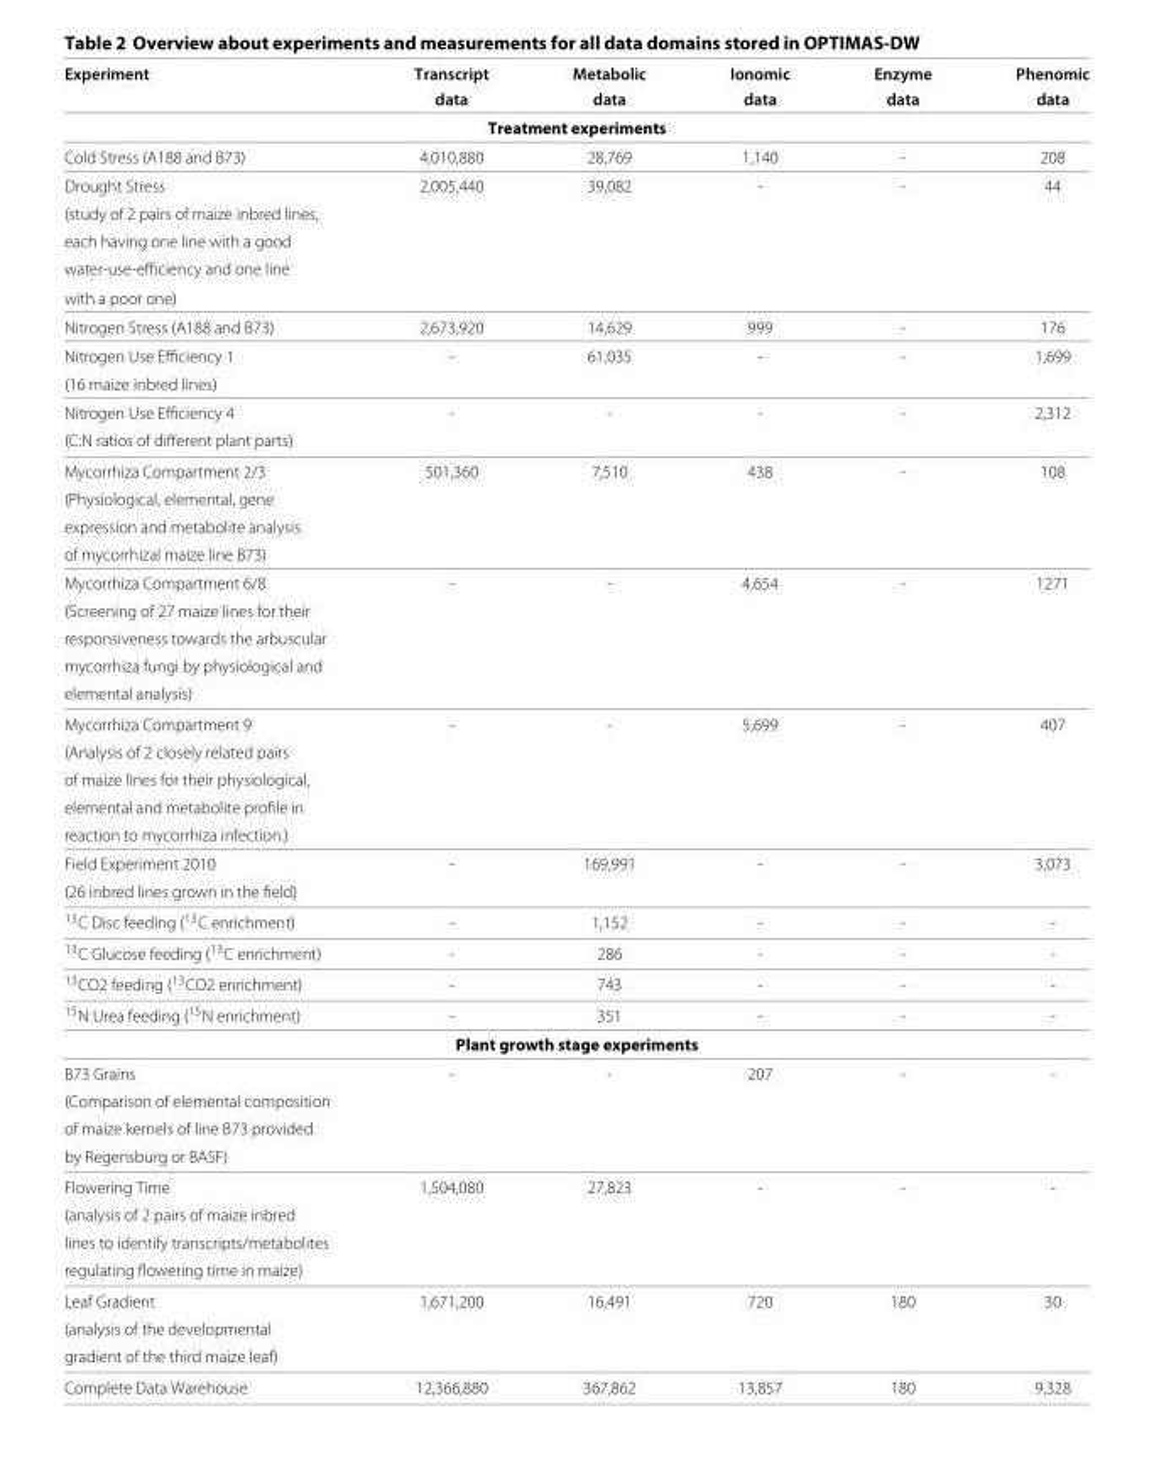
<table><thead><tr><td rowspan="2">Experiment</td><td rowspan="2">Transcript data</td><td rowspan="2">Metabolic data</td><td rowspan="2">Ionomic data</td><td rowspan="2">Enzyme data</td><td rowspan="2">Phenomic data</td></tr><tr></tr></thead><tbody><tr><td colspan="6">Treatment experiments</td></tr><tr><td>Cold Stress (A188 and B73)</td><td>4,010,880</td><td>28,769</td><td>1,140</td><td>-</td><td>208</td></tr><tr><td>Drought Stress</td><td>2,005,440</td><td>39,082</td><td>-</td><td>-</td><td>44</td></tr><tr><td colspan="6">(study of 2 pairs of maize inbred lines,</td></tr><tr><td colspan="6">each having one line with a good</td></tr><tr><td colspan="6">water-use-efficiency and one line</td></tr><tr><td colspan="6">with a poor one)</td></tr><tr><td>Nitrogen Stress (A188 and B73)</td><td>2,673,920</td><td>14,629</td><td>999</td><td>-</td><td>176</td></tr><tr><td>Nitrogen Use Efficiency 1</td><td>-</td><td>61,035</td><td>-</td><td>-</td><td>1,699</td></tr><tr><td colspan="6">(16 maize inbred lines)</td></tr><tr><td>Nitrogen Use Efficiency 4</td><td>-</td><td>-</td><td>-</td><td>-</td><td>2,312</td></tr><tr><td colspan="6">(C:N ratios of different plant parts)</td></tr><tr><td>Mycorrhiza Compartment 2/3</td><td>501,360</td><td>7,510</td><td>438</td><td>-</td><td>108</td></tr><tr><td colspan="6">(Physiological, elemental, gene</td></tr><tr><td colspan="6">expression and metabolite analysis</td></tr><tr><td colspan="6">of mycorrhizal maize line B73)</td></tr><tr><td>Mycorrhiza Compartment 6/8</td><td>-</td><td>-</td><td>4,654</td><td>-</td><td>1271</td></tr><tr><td colspan="6">(Screening of 27 maize lines for their</td></tr><tr><td colspan="6">responsiveness towards the arbuscular</td></tr><tr><td colspan="6">mycorrhiza fungi by physiological and</td></tr><tr><td colspan="6">elemental analysis)</td></tr><tr><td>Mycorrhiza Compartment 9</td><td>-</td><td>-</td><td>5,699</td><td>-</td><td>407</td></tr><tr><td colspan="6">(Analysis of 2 closely related pairs</td></tr><tr><td colspan="6">of maize lines for their physiological,</td></tr><tr><td colspan="6">elemental and metabolite profile in</td></tr><tr><td colspan="6">reaction to mycorrhiza infection.)</td></tr><tr><td>Field Experiment 2010</td><td>-</td><td>169,991</td><td>-</td><td>-</td><td>3,073</td></tr><tr><td colspan="6">(26 inbred lines grown in the field)</td></tr><tr><td><sup>13</sup>C Disc feeding (<sup>13</sup>C enrichment)</td><td>-</td><td>1,152</td><td>-</td><td>-</td><td>-</td></tr><tr><td><sup>13</sup>C Glucose feeding (<sup>13</sup>C enrichment)</td><td>-</td><td>286</td><td>-</td><td>-</td><td>-</td></tr><tr><td><sup>13</sup>CO2 feeding (<sup>13</sup>CO2 enrichment)</td><td>-</td><td>743</td><td>-</td><td>-</td><td>-</td></tr><tr><td><sup>15</sup>N Urea feeding (<sup>15</sup>N enrichment)</td><td>-</td><td>351</td><td>-</td><td>-</td><td>-</td></tr><tr><td colspan="6">Plant growth stage experiments</td></tr><tr><td>B73 Grains</td><td>-</td><td>-</td><td>207</td><td>-</td><td>-</td></tr><tr><td colspan="6">(Comparison of elemental composition</td></tr><tr><td colspan="6">of maize kernels of line B73 provided</td></tr><tr><td colspan="6">by Regensburg or BASF)</td></tr><tr><td>Flowering Time</td><td>1,504,080</td><td>27,823</td><td>-</td><td>-</td><td>-</td></tr><tr><td colspan="6">(analysis of 2 pairs of maize inbred</td></tr><tr><td colspan="6">lines to identify transcripts/metabolites</td></tr><tr><td colspan="6">regulating flowering time in maize)</td></tr><tr><td>Leaf Gradient</td><td>1,671,200</td><td>16,491</td><td>720</td><td>180</td><td>30</td></tr><tr><td colspan="6">(analysis of the developmental</td></tr><tr><td colspan="6">gradient of the third maize leaf)</td></tr><tr><td>Complete Data Warehouse</td><td>12,366,880</td><td>367,862</td><td>13,857</td><td>180</td><td>9,328</td></tr></tbody></table>